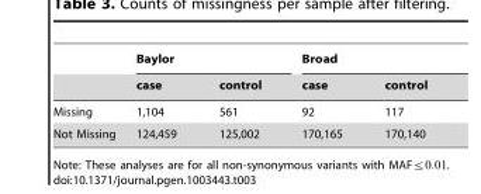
<table><thead><tr><td rowspan="2"></td><td colspan="2">Baylor</td><td colspan="2">Broad</td></tr><tr><td>case</td><td>control</td><td>case</td><td>control</td></tr></thead><tbody><tr><td>Missing</td><td>1,104</td><td>561</td><td>92</td><td>117</td></tr><tr><td>Not Missing</td><td>124,459</td><td>125,002</td><td>170,165</td><td>170,140</td></tr></tbody></table>